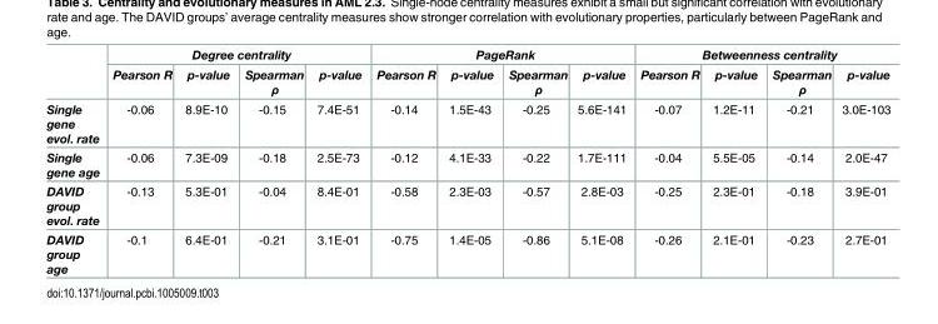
<table><thead><tr><td rowspan="2"></td><td colspan="4">Degree centrality</td><td colspan="4">PageRank</td><td colspan="4">Betweenness centrality</td></tr><tr><td>Pearson R</td><td>p-value</td><td>Spearman ρ</td><td>p-value</td><td>Pearson R</td><td>p-value</td><td>Spearman ρ</td><td>p-value</td><td>Pearson R</td><td>p-value</td><td>Spearman ρ</td><td>p-value</td></tr></thead><tbody><tr><td>Single gene evol. rate</td><td>-0.06</td><td>8.9E-10</td><td>-0.15</td><td>7.4E-51</td><td>-0.14</td><td>1.5E-43</td><td>-0.25</td><td>5.6E-141</td><td>-0.07</td><td>1.2E-11</td><td>-0.21</td><td>3.0E-103</td></tr><tr><td>Single gene age</td><td>-0.06</td><td>7.3E-09</td><td>-0.18</td><td>2.5E-73</td><td>-0.12</td><td>4.1E-33</td><td>-0.22</td><td>1.7E-111</td><td>-0.04</td><td>5.5E-05</td><td>-0.14</td><td>2.0E-47</td></tr><tr><td>DAVID group evol. rate</td><td>-0.13</td><td>5.3E-01</td><td>-0.04</td><td>8.4E-01</td><td>-0.58</td><td>2.3E-03</td><td>-0.57</td><td>2.8E-03</td><td>-0.25</td><td>2.3E-01</td><td>-0.18</td><td>3.9E-01</td></tr><tr><td>DAVID group age</td><td>-0.1</td><td>6.4E-01</td><td>-0.21</td><td>3.1E-01</td><td>-0.75</td><td>1.4E-05</td><td>-0.86</td><td>5.1E-08</td><td>-0.26</td><td>2.1E-01</td><td>-0.23</td><td>2.7E-01</td></tr></tbody></table>